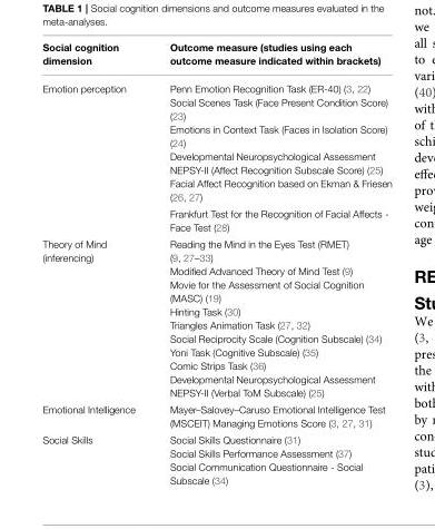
<table><thead><tr><td>Social cognition dimension</td><td>Outcome measure (studies using each outcome measure indicated within brackets)</td></tr></thead><tbody><tr><td rowspan="2">Emotion perception</td><td>Penn Emotion Recognition Task (ER-40) (3, 22) Social Scenes Task (Face Present Condition Score) (23) Emotions in Context Task (Faces in Isolation Score) (24) Developmental Neuropsychological Assessment NEPSY-II (Affect Recognition Subscale Score) (25) Facial Affect Recognition based on Ekman &amp; Friesen (26, 27)</td></tr><tr><td>Frankfurt Test for the Recognition of Facial Affects - Face Test (28)</td></tr><tr><td>Theory of Mind (inferencing)</td><td>Reading the Mind in the Eyes Test (RMET) (9, 27–33) Modified Advanced Theory of Mind Test (9) Movie for the Assessment of Social Cognition (MASC) (19) Hinting Task (30) Triangles Animation Task (27, 32) Social Reciprocity Scale (Cognition Subscale) (34) Yoni Task (Cognitive Subscale) (35) Comic Strips Task (36) Developmental Neuropsychological Assessment NEPSY-II (Verbal ToM Subscale) (25)</td></tr><tr><td>Emotional Intelligence</td><td>Mayer–Salovey–Caruso Emotional Intelligence Test (MSCEIT) Managing Emotions Score (3, 27, 31)</td></tr><tr><td>Social Skills</td><td>Social Skills Questionnaire (31) Social Skills Performance Assessment (37) Social Communication Questionnaire - Social Subscale (34)</td></tr></tbody></table>